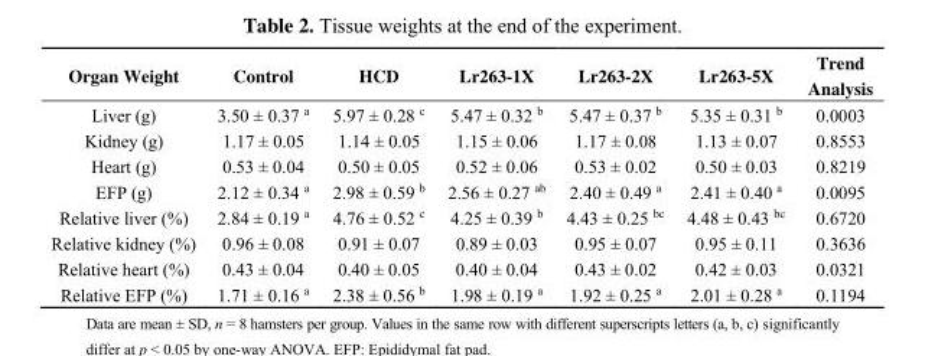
<table><thead><tr><td>Organ Weight</td><td>Control</td><td>HCD</td><td>Lr263-1X</td><td>Lr263-2X</td><td>Lr263-5X</td><td>Trend Analysis</td></tr></thead><tbody><tr><td>Liver (g)</td><td>3.50 ± 0.37 <sup>a</sup></td><td>5.97 ± 0.28 <sup>c</sup></td><td>5.47 ± 0.32 <sup>b</sup></td><td>5.47 ± 0.37 <sup>b</sup></td><td>5.35 ± 0.31 <sup>b</sup></td><td>0.0003</td></tr><tr><td>Kidney (g)</td><td>1.17 ± 0.05</td><td>1.14 ± 0.05</td><td>1.15 ± 0.06</td><td>1.17 ± 0.08</td><td>1.13 ± 0.07</td><td>0.8553</td></tr><tr><td>Heart (g)</td><td>0.53 ± 0.04</td><td>0.50 ± 0.05</td><td>0.52 ± 0.06</td><td>0.53 ± 0.02</td><td>0.50 ± 0.03</td><td>0.8219</td></tr><tr><td>EFP (g)</td><td>2.12 ± 0.34 <sup>a</sup></td><td>2.98 ± 0.59 <sup>b</sup></td><td>2.56 ± 0.27 <sup>ab</sup></td><td>2.40 ± 0.49 <sup>a</sup></td><td>2.41 ± 0.40 <sup>a</sup></td><td>0.0095</td></tr><tr><td>Relative liver (%)</td><td>2.84 ± 0.19 <sup>a</sup></td><td>4.76 ± 0.52 <sup>c</sup></td><td>4.25 ± 0.39 <sup>b</sup></td><td>4.43 ± 0.25 <sup>bc</sup></td><td>4.48 ± 0.43 <sup>bc</sup></td><td>0.6720</td></tr><tr><td>Relative kidney (%)</td><td>0.96 ± 0.08</td><td>0.91 ± 0.07</td><td>0.89 ± 0.03</td><td>0.95 ± 0.07</td><td>0.95 ± 0.11</td><td>0.3636</td></tr><tr><td>Relative heart (%)</td><td>0.43 ± 0.04</td><td>0.40 ± 0.05</td><td>0.40 ± 0.04</td><td>0.43 ± 0.02</td><td>0.42 ± 0.03</td><td>0.0321</td></tr><tr><td>Relative EFP (%)</td><td>1.71 ± 0.16 <sup>a</sup></td><td>2.38 ± 0.56 <sup>b</sup></td><td>1.98 ± 0.19 <sup>a</sup></td><td>1.92 ± 0.25 <sup>a</sup></td><td>2.01 ± 0.28 <sup>a</sup></td><td>0.1194</td></tr></tbody></table>